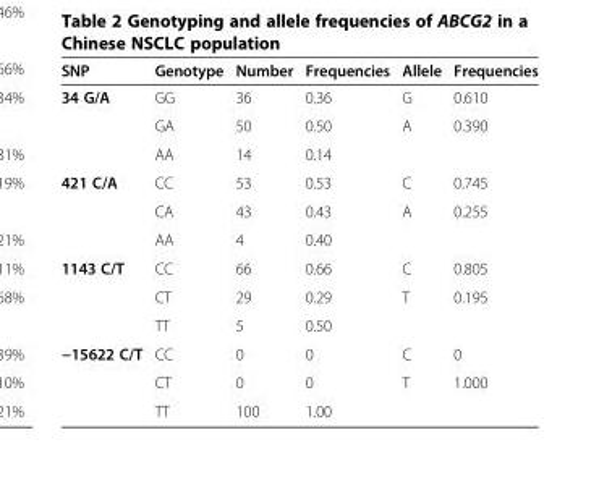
<table><thead><tr><td>SNP</td><td>Genotype</td><td>Number</td><td>Frequencies</td><td>Allele</td><td>Frequencies</td></tr></thead><tbody><tr><td rowspan="3">34 G/A</td><td>GG</td><td>36</td><td>0.36</td><td>G</td><td>0.610</td></tr><tr><td>GA</td><td>50</td><td>0.50</td><td>A</td><td>0.390</td></tr><tr><td>AA</td><td>14</td><td>0.14</td><td></td><td></td></tr><tr><td rowspan="3">421 C/A</td><td>CC</td><td>53</td><td>0.53</td><td>C</td><td>0.745</td></tr><tr><td>CA</td><td>43</td><td>0.43</td><td>A</td><td>0.255</td></tr><tr><td>AA</td><td>4</td><td>0.40</td><td></td><td></td></tr><tr><td rowspan="3">1143 C/T</td><td>CC</td><td>66</td><td>0.66</td><td>C</td><td>0.805</td></tr><tr><td>CT</td><td>29</td><td>0.29</td><td>T</td><td>0.195</td></tr><tr><td>TT</td><td>5</td><td>0.50</td><td></td><td></td></tr><tr><td rowspan="3">−15622 C/T</td><td>CC</td><td>0</td><td>0</td><td>C</td><td>0</td></tr><tr><td>CT</td><td>0</td><td>0</td><td>T</td><td>1.000</td></tr><tr><td>TT</td><td>100</td><td>1.00</td><td></td><td></td></tr></tbody></table>